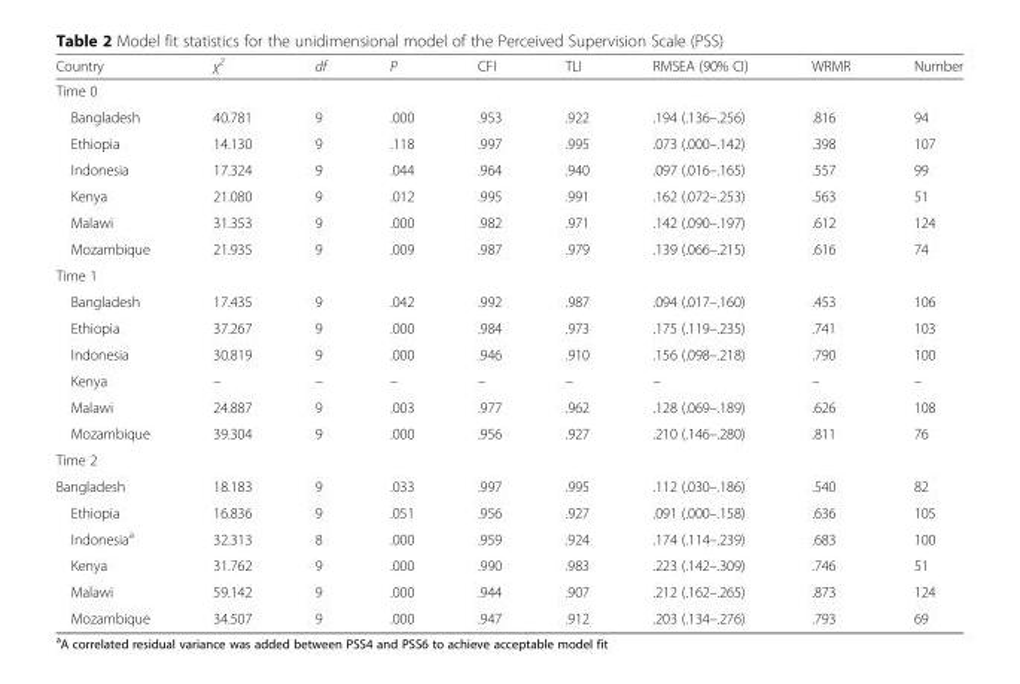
<table><thead><tr><td>Country</td><td>χ<sup>2</sup></td><td>df</td><td>P</td><td>CFI</td><td>TLI</td><td>RMSEA (90% CI)</td><td>WRMR</td><td>Number</td></tr></thead><tbody><tr><td colspan="9">Time 0</td></tr><tr><td>Bangladesh</td><td>40.781</td><td>9</td><td>.000</td><td>.953</td><td>.922</td><td>.194 (.136–.256)</td><td>.816</td><td>94</td></tr><tr><td>Ethiopia</td><td>14.130</td><td>9</td><td>.118</td><td>.997</td><td>.995</td><td>.073 (.000–.142)</td><td>.398</td><td>107</td></tr><tr><td>Indonesia</td><td>17.324</td><td>9</td><td>.044</td><td>.964</td><td>.940</td><td>.097 (.016–.165)</td><td>.557</td><td>99</td></tr><tr><td>Kenya</td><td>21.080</td><td>9</td><td>.012</td><td>.995</td><td>.991</td><td>.162 (.072–.253)</td><td>.563</td><td>51</td></tr><tr><td>Malawi</td><td>31.353</td><td>9</td><td>.000</td><td>.982</td><td>.971</td><td>.142 (.090–.197)</td><td>.612</td><td>124</td></tr><tr><td>Mozambique</td><td>21.935</td><td>9</td><td>.009</td><td>.987</td><td>.979</td><td>.139 (.066–.215)</td><td>.616</td><td>74</td></tr><tr><td colspan="9">Time 1</td></tr><tr><td>Bangladesh</td><td>17.435</td><td>9</td><td>.042</td><td>.992</td><td>.987</td><td>.094 (.017–.160)</td><td>.453</td><td>106</td></tr><tr><td>Ethiopia</td><td>37.267</td><td>9</td><td>.000</td><td>.984</td><td>.973</td><td>.175 (.119–.235)</td><td>.741</td><td>103</td></tr><tr><td>Indonesia</td><td>30.819</td><td>9</td><td>.000</td><td>.946</td><td>.910</td><td>.156 (.098–.218)</td><td>.790</td><td>100</td></tr><tr><td>Kenya</td><td>–</td><td>–</td><td>–</td><td>–</td><td>–</td><td>–</td><td>–</td><td>–</td></tr><tr><td>Malawi</td><td>24.887</td><td>9</td><td>.003</td><td>.977</td><td>.962</td><td>.128 (.069–.189)</td><td>.626</td><td>108</td></tr><tr><td>Mozambique</td><td>39.304</td><td>9</td><td>.000</td><td>.956</td><td>.927</td><td>.210 (.146–.280)</td><td>.811</td><td>76</td></tr><tr><td colspan="9">Time 2</td></tr><tr><td>Bangladesh</td><td>18.183</td><td>9</td><td>.033</td><td>.997</td><td>.995</td><td>.112 (.030–.186)</td><td>.540</td><td>82</td></tr><tr><td>Ethiopia</td><td>16.836</td><td>9</td><td>.051</td><td>.956</td><td>.927</td><td>.091 (.000–.158)</td><td>.636</td><td>105</td></tr><tr><td>Indonesia<sup>a</sup></td><td>32.313</td><td>8</td><td>.000</td><td>.959</td><td>.924</td><td>.174 (.114–.239)</td><td>.683</td><td>100</td></tr><tr><td>Kenya</td><td>31.762</td><td>9</td><td>.000</td><td>.990</td><td>.983</td><td>.223 (.142–.309)</td><td>.746</td><td>51</td></tr><tr><td>Malawi</td><td>59.142</td><td>9</td><td>.000</td><td>.944</td><td>.907</td><td>.212 (.162–.265)</td><td>.873</td><td>124</td></tr><tr><td>Mozambique</td><td>34.507</td><td>9</td><td>.000</td><td>.947</td><td>.912</td><td>.203 (.134–.276)</td><td>.793</td><td>69</td></tr></tbody></table>